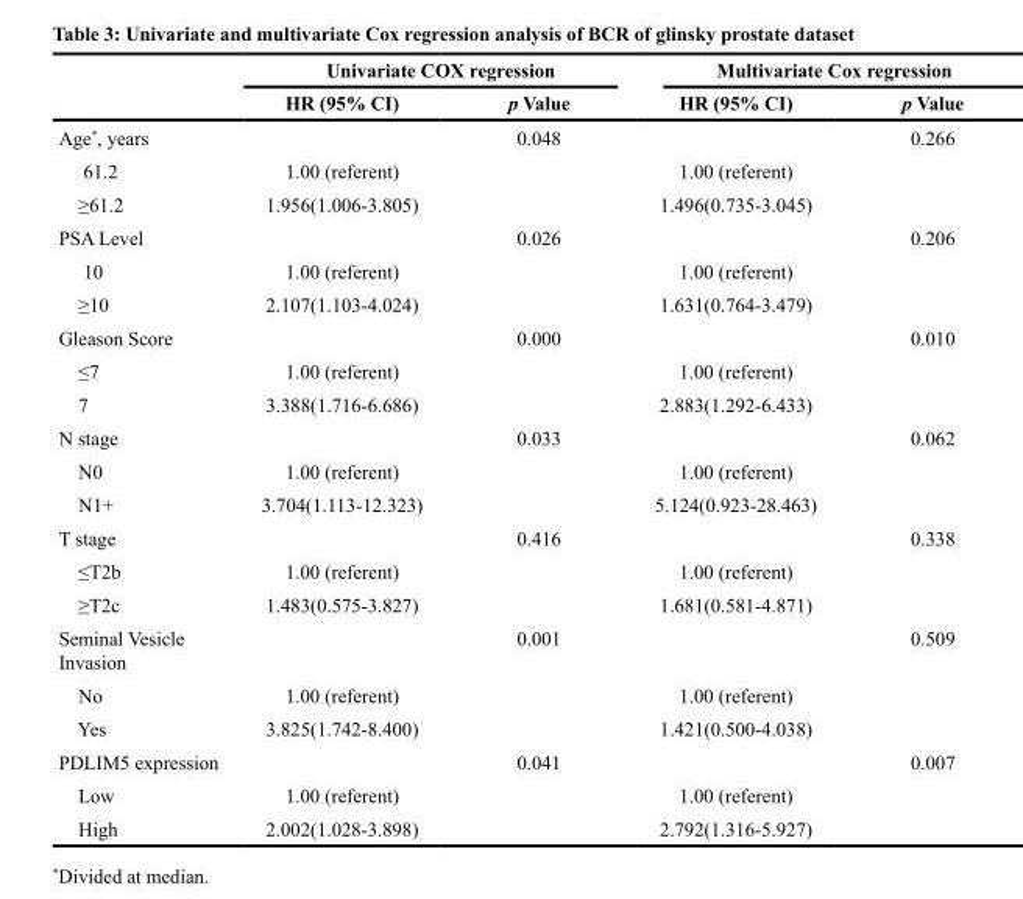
<table><thead><tr><td rowspan="2"></td><td colspan="2">Univariate COX regression</td><td colspan="2">Multivariate Cox regression</td></tr><tr><td>HR (95% CI)</td><td>p Value</td><td>HR (95% CI)</td><td>p Value</td></tr></thead><tbody><tr><td>Age*, years</td><td></td><td>0.048</td><td></td><td>0.266</td></tr><tr><td>61.2</td><td>1.00 (referent)</td><td></td><td>1.00 (referent)</td><td></td></tr><tr><td>≥61.2</td><td>1.956(1.006-3.805)</td><td></td><td>1.496(0.735-3.045)</td><td></td></tr><tr><td>PSA Level</td><td></td><td>0.026</td><td></td><td>0.206</td></tr><tr><td>10</td><td>1.00 (referent)</td><td></td><td>1.00 (referent)</td><td></td></tr><tr><td>≥10</td><td>2.107(1.103-4.024)</td><td></td><td>1.631(0.764-3.479)</td><td></td></tr><tr><td>Gleason Score</td><td></td><td>0.000</td><td></td><td>0.010</td></tr><tr><td>≤7</td><td>1.00 (referent)</td><td></td><td>1.00 (referent)</td><td></td></tr><tr><td>7</td><td>3.388(1.716-6.686)</td><td></td><td>2.883(1.292-6.433)</td><td></td></tr><tr><td>N stage</td><td></td><td>0.033</td><td></td><td>0.062</td></tr><tr><td>N0</td><td>1.00 (referent)</td><td></td><td>1.00 (referent)</td><td></td></tr><tr><td>N1+</td><td>3.704(1.113-12.323)</td><td></td><td>5.124(0.923-28.463)</td><td></td></tr><tr><td>T stage</td><td></td><td>0.416</td><td></td><td>0.338</td></tr><tr><td>≤T2b</td><td>1.00 (referent)</td><td></td><td>1.00 (referent)</td><td></td></tr><tr><td>≥T2c</td><td>1.483(0.575-3.827)</td><td></td><td>1.681(0.581-4.871)</td><td></td></tr><tr><td>Seminal Vesicle Invasion</td><td></td><td>0.001</td><td></td><td>0.509</td></tr><tr><td>No</td><td>1.00 (referent)</td><td></td><td>1.00 (referent)</td><td></td></tr><tr><td>Yes</td><td>3.825(1.742-8.400)</td><td></td><td>1.421(0.500-4.038)</td><td></td></tr><tr><td>PDLIM5 expression</td><td></td><td>0.041</td><td></td><td>0.007</td></tr><tr><td>Low</td><td>1.00 (referent)</td><td></td><td>1.00 (referent)</td><td></td></tr><tr><td>High</td><td>2.002(1.028-3.898)</td><td></td><td>2.792(1.316-5.927)</td><td></td></tr></tbody></table>